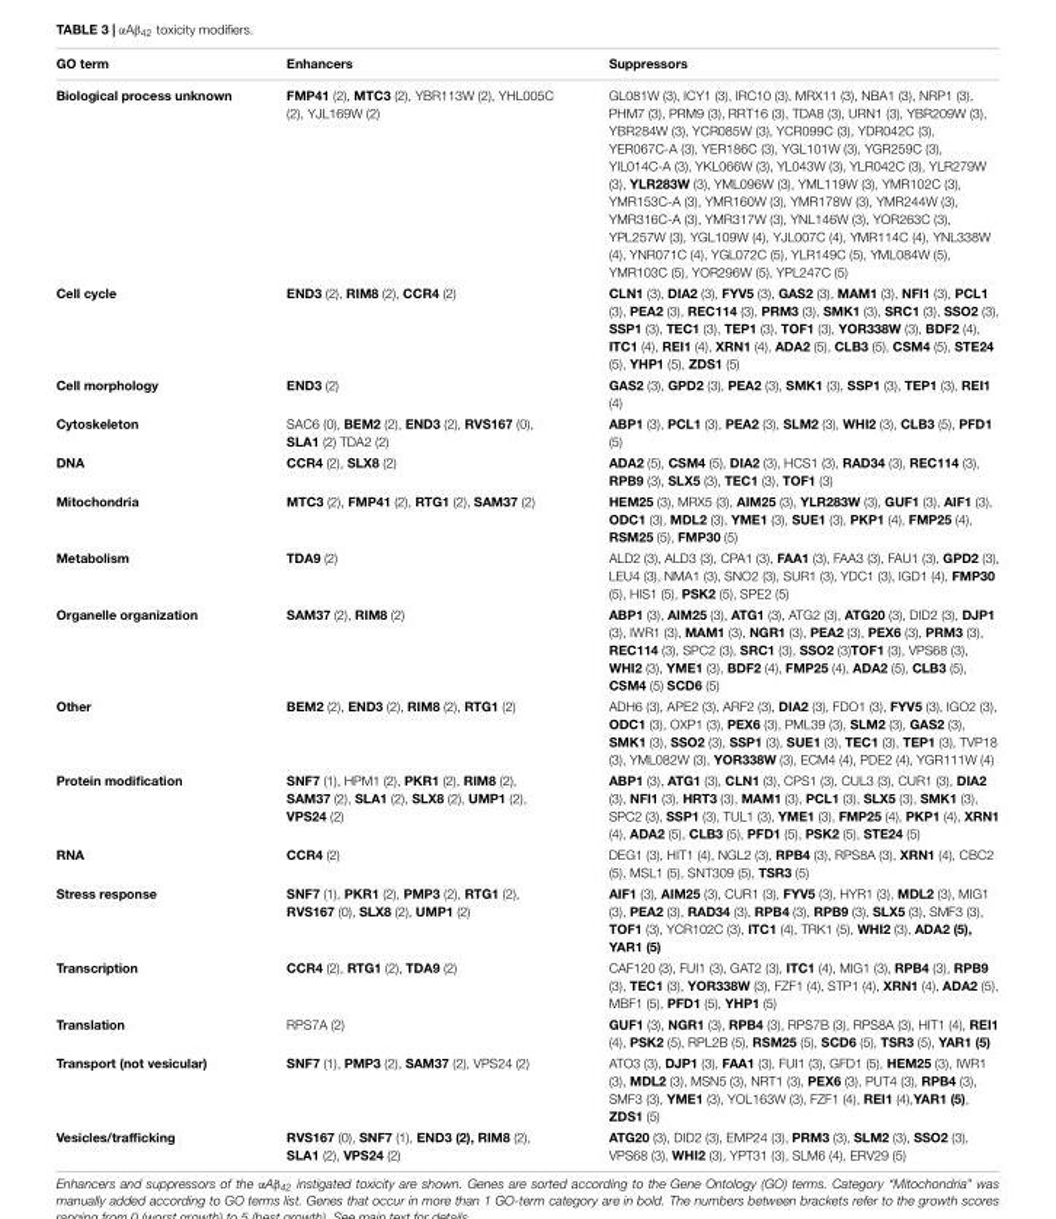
<table><thead><tr><td>GO term</td><td>Enhancers</td><td>Suppressors</td></tr></thead><tbody><tr><td>Biological process unknown</td><td>FMP41 (2), MTC3 (2), YBR113W (2), YHL005C (2), YJL169W (2)</td><td>GL081W (3), ICY1 (3), IRC10 (3), MRX11 (3), NBA1 (3), NRP1 (3), PHM7 (3), PRM9 (3), RRT16 (3), TDA8 (3), URN1 (3), YBR209W (3), YBR284W (3), YCR085W (3), YCR099C (3), YDR042C (3), YER067C-A (3), YER186C (3), YGL101W (3), YGR259C (3), YIL014C-A (3), YKL066W (3), YL043W (3), YLR042C (3), YLR279W (3), YLR283W (3), YML096W (3), YML119W (3), YMR102C (3), YMR153C-A (3), YMR160W (3), YMR178W (3), YMR244W (3), YMR316C-A (3), YMR317W (3), YNL146W (3), YOR263C (3), YPL257W (3), YGL109W (4), YJL007C (4), YMR114C (4), YNL338W (4), YNR071C (4), YGL072C (5), YLR149C (5), YML084W (5), YMR103C (5), YOR296W (5), YPL247C (5)</td></tr><tr><td>Cell cycle</td><td>END3 (2), RIM8 (2), CCR4 (2)</td><td>CLN1 (3), DIA2 (3), FYV5 (3), GAS2 (3), MAM1 (3), NFI1 (3), PCL1 (3), PEA2 (3), REC114 (3), PRM3 (3), SMK1 (3), SRC1 (3), SSO2 (3), SSP1 (3), TEC1 (3), TEP1 (3), TOF1 (3), YOR338W (3), BDF2 (4), ITC1 (4), REI1 (4), XRN1 (4), ADA2 (5), CLB3 (5), CSM4 (5), STE24 (5), YHP1 (5), ZDS1 (5)</td></tr><tr><td>Cell morphology</td><td>END3 (2)</td><td>GAS2 (3), GPD2 (3), PEA2 (3), SMK1 (3), SSP1 (3), TEP1 (3), REI1 (4)</td></tr><tr><td>Cytoskeleton</td><td>SAC6 (0), BEM2 (2), END3 (2), RVS167 (0), SLA1 (2) TDA2 (2)</td><td>ABP1 (3), PCL1 (3), PEA2 (3), SLM2 (3), WHI2 (3), CLB3 (5), PFD1 (5)</td></tr><tr><td>DNA</td><td>CCR4 (2), SLX8 (2)</td><td>ADA2 (5), CSM4 (5), DIA2 (3), HCS1 (3), RAD34 (3), REC114 (3), RPB9 (3), SLX5 (3), TEC1 (3), TOF1 (3)</td></tr><tr><td>Mitochondria</td><td>MTC3 (2), FMP41 (2), RTG1 (2), SAM37 (2)</td><td>HEM25 (3), MRX5 (3), AIM25 (3), YLR283W (3), GUF1 (3), AIF1 (3), ODC1 (3), MDL2 (3), YME1 (3), SUE1 (3), PKP1 (4), FMP25 (4), RSM25 (5), FMP30 (5)</td></tr><tr><td>Metabolism</td><td>TDA9 (2)</td><td>ALD2 (3), ALD3 (3), CPA1 (3), FAA1 (3), FAA3 (3), FAU1 (3), GPD2 (3), LEU4 (3), NMA1 (3), SNO2 (3), SUR1 (3), YDC1 (3), IGD1 (4), FMP30 (5), HIS1 (5), PSK2 (5), SPE2 (5)</td></tr><tr><td>Organelle organization</td><td>SAM37 (2), RIM8 (2)</td><td>ABP1 (3), AIM25 (3), ATG1 (3), ATG2 (3), ATG20 (3), DID2 (3), DJP1 (3), IWR1 (3), MAM1 (3), NGR1 (3), PEA2 (3), PEX6 (3), PRM3 (3), REC114 (3), SPC2 (3), SRC1 (3), SSO2 (3)TOF1 (3), VPS68 (3), WHI2 (3), YME1 (3), BDF2 (4), FMP25 (4), ADA2 (5), CLB3 (5), CSM4 (5) SCD6 (5)</td></tr><tr><td>Other</td><td>BEM2 (2), END3 (2), RIM8 (2), RTG1 (2)</td><td>ADH6 (3), APE2 (3), ARF2 (3), DIA2 (3), FDO1 (3), FYV5 (3), IGO2 (3), ODC1 (3), OXP1 (3), PEX6 (3), PML39 (3), SLM2 (3), GAS2 (3), SMK1 (3), SSO2 (3), SSP1 (3), SUE1 (3), TEC1 (3), TEP1 (3), TVP18 (3), YML082W (3), YOR338W (3), ECM4 (4), PDE2 (4), YGR111W (4)</td></tr><tr><td>Protein modification</td><td>SNF7 (1), HPM1 (2), PKR1 (2), RIM8 (2), SAM37 (2), SLA1 (2), SLX8 (2), UMP1 (2), VPS24 (2)</td><td>ABP1 (3), ATG1 (3), CLN1 (3), CPS1 (3), CUL3 (3), CUR1 (3), DIA2 (3), NFI1 (3), HRT3 (3), MAM1 (3), PCL1 (3), SLX5 (3), SMK1 (3), SPC2 (3), SSP1 (3), TUL1 (3), YME1 (3), FMP25 (4), PKP1 (4), XRN1 (4), ADA2 (5), CLB3 (5), PFD1 (5), PSK2 (5), STE24 (5)</td></tr><tr><td>RNA</td><td>CCR4 (2)</td><td>DEG1 (3), HIT1 (4), NGL2 (3), RPB4 (3), RPS8A (3), XRN1 (4), CBC2 (5), MSL1 (5), SNT309 (5), TSR3 (5)</td></tr><tr><td>Stress response</td><td>SNF7 (1), PKR1 (2), PMP3 (2), RTG1 (2), RVS167 (0), SLX8 (2), UMP1 (2)</td><td>AIF1 (3), AIM25 (3), CUR1 (3), FYV5 (3), HYR1 (3), MDL2 (3), MIG1 (3), PEA2 (3), RAD34 (3), RPB4 (3), RPB9 (3), SLX5 (3), SMF3 (3), TOF1 (3), YCR102C (3), ITC1 (4), TRK1 (5), WHI2 (3), ADA2 (5), YAR1 (5)</td></tr><tr><td>Transcription</td><td>CCR4 (2), RTG1 (2), TDA9 (2)</td><td>CAF120 (3), FUI1 (3), GAT2 (3), ITC1 (4), MIG1 (3), RPB4 (3), RPB9 (3), TEC1 (3), YOR338W (3), FZF1 (4), STP1 (4), XRN1 (4), ADA2 (5), MBF1 (5), PFD1 (5), YHP1 (5)</td></tr><tr><td>Translation</td><td>RPS7A (2)</td><td>GUF1 (3), NGR1 (3), RPB4 (3), RPS7B (3), RPS8A (3), HIT1 (4), REI1 (4), PSK2 (5), RPL2B (5), RSM25 (5), SCD6 (5), TSR3 (5), YAR1 (5)</td></tr><tr><td>Transport (not vesicular)</td><td>SNF7 (1), PMP3 (2), SAM37 (2), VPS24 (2)</td><td>ATO3 (3), DJP1 (3), FAA1 (3), FUI1 (3), GFD1 (5), HEM25 (3), IWR1 (3), MDL2 (3), MSN5 (3), NRT1 (3), PEX6 (3), PUT4 (3), RPB4 (3), SMF3 (3), YME1 (3), YOL163W (3), FZF1 (4), REI1 (4),YAR1 (5), ZDS1 (5)</td></tr><tr><td>Vesicles/trafficking</td><td>RVS167 (0), SNF7 (1), END3 (2), RIM8 (2), SLA1 (2), VPS24 (2)</td><td>ATG20 (3), DID2 (3), EMP24 (3), PRM3 (3), SLM2 (3), SSO2 (3), VPS68 (3), WHI2 (3), YPT31 (3), SLM6 (4), ERV29 (5)</td></tr></tbody></table>